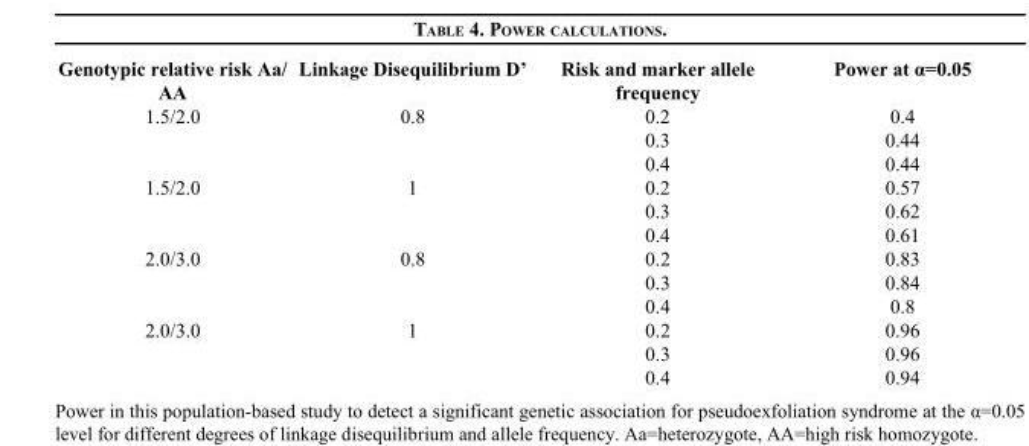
<table><thead><tr><td>Genotypic relative risk Aa/ AA</td><td>Linkage Disequilibrium D’</td><td>Risk and marker allele frequency</td><td>Power at α=0.05</td></tr></thead><tbody><tr><td rowspan="3">1.5/2.0</td><td>0.8</td><td>0.2</td><td>0.4</td></tr><tr><td></td><td>0.3</td><td>0.44</td></tr><tr><td></td><td>0.4</td><td>0.44</td></tr><tr><td rowspan="3">1.5/2.0</td><td>1</td><td>0.2</td><td>0.57</td></tr><tr><td></td><td>0.3</td><td>0.62</td></tr><tr><td></td><td>0.4</td><td>0.61</td></tr><tr><td rowspan="3">2.0/3.0</td><td>0.8</td><td>0.2</td><td>0.83</td></tr><tr><td></td><td>0.3</td><td>0.84</td></tr><tr><td></td><td>0.4</td><td>0.8</td></tr><tr><td rowspan="3">2.0/3.0</td><td>1</td><td>0.2</td><td>0.96</td></tr><tr><td></td><td>0.3</td><td>0.96</td></tr><tr><td></td><td>0.4</td><td>0.94</td></tr></tbody></table>